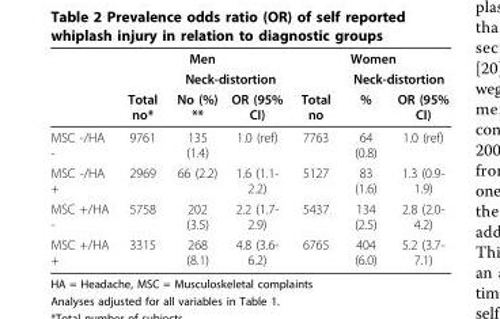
<table><thead><tr><td rowspan="3"></td><td colspan="3">Men</td><td colspan="3">Women</td></tr><tr><td rowspan="2">Total no*</td><td colspan="2">Neck-distortion</td><td rowspan="2">Total no</td><td colspan="2">Neck-distortion</td></tr><tr><td>No (%) **</td><td>OR (95% CI)</td><td>%</td><td>OR (95% CI)</td></tr></thead><tbody><tr><td>MSC -/HA -</td><td>9761</td><td>135 (1.4)</td><td>1.0 (ref)</td><td>7763</td><td>64 (0.8)</td><td>1.0 (ref)</td></tr><tr><td>MSC -/HA +</td><td>2969</td><td>66 (2.2)</td><td>1.6 (1.1- 2.2)</td><td>5127</td><td>83 (1.6)</td><td>1.3 (0.9- 1.9)</td></tr><tr><td>MSC +/HA -</td><td>5758</td><td>202 (3.5)</td><td>2.2 (1.7- 2.9)</td><td>5437</td><td>134 (2.5)</td><td>2.8 (2.0- 4.2)</td></tr><tr><td>MSC +/HA +</td><td>3315</td><td>268 (8.1)</td><td>4.8 (3.6- 6.2)</td><td>6765</td><td>404 (6.0)</td><td>5.2 (3.7- 7.1)</td></tr></tbody></table>